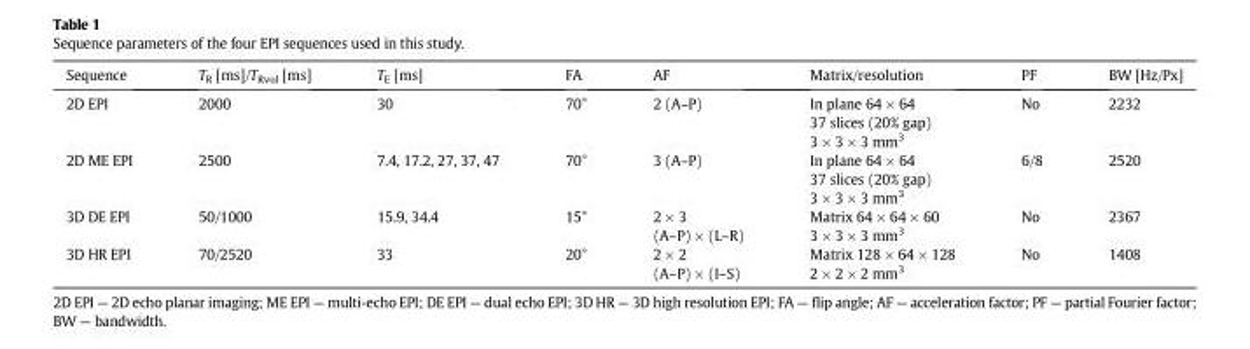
<table><thead><tr><td>Sequence</td><td>T<sub>R</sub> [ms]/T<sub>Rvol</sub> [ms]</td><td>T<sub>E</sub> [ms]</td><td>FA</td><td>AF</td><td>Matrix/resolution</td><td>PF</td><td>BW [Hz/Px]</td></tr></thead><tbody><tr><td>2D EPI</td><td>2000</td><td>30</td><td>70°</td><td>2 (A–P)</td><td>In plane 64 × 64 37 slices (20% gap) 3 × 3 × 3 mm<sup>3</sup></td><td>No</td><td>2232</td></tr><tr><td>2D ME EPI</td><td>2500</td><td>7.4, 17.2, 27, 37, 47</td><td>70°</td><td>3 (A–P)</td><td>In plane 64 × 64 37 slices (20% gap) 3 × 3 × 3 mm<sup>3</sup></td><td>6/8</td><td>2520</td></tr><tr><td>3D DE EPI</td><td>50/1000</td><td>15.9, 34.4</td><td>15°</td><td>2 × 3 (A–P) × (L–R)</td><td>Matrix 64 × 64 × 60 3 × 3 × 3 mm<sup>3</sup></td><td>No</td><td>2367</td></tr><tr><td>3D HR EPI</td><td>70/2520</td><td>33</td><td>20°</td><td>2 × 2 (A–P) × (I–S)</td><td>Matrix 128 × 64 × 128 2 × 2 × 2 mm<sup>3</sup></td><td>No</td><td>1408</td></tr></tbody></table>